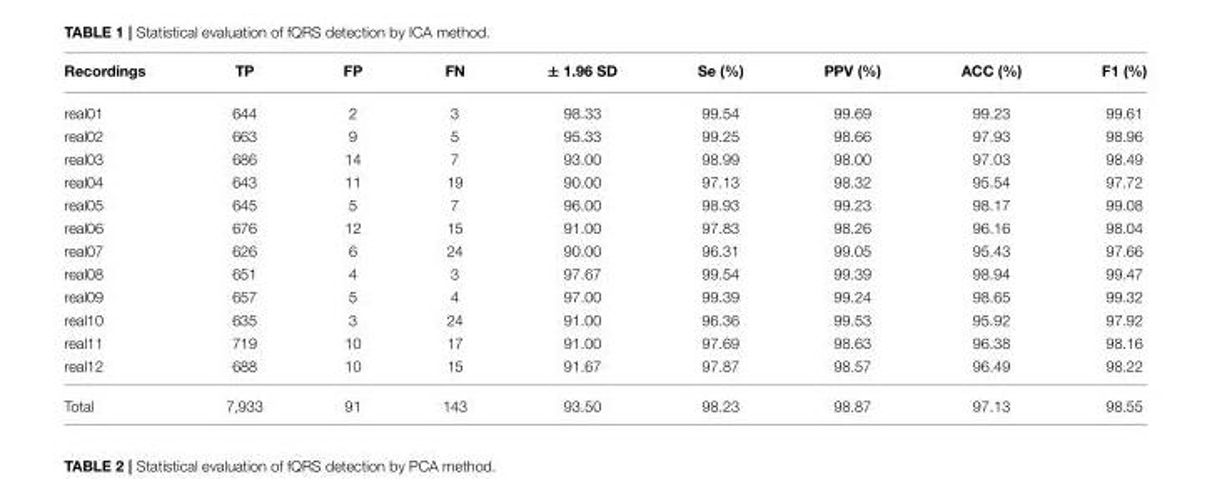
<table><thead><tr><td>Recordings</td><td>TP</td><td>FP</td><td>FN</td><td>± 1.96 SD</td><td>Se (%)</td><td>PPV (%)</td><td>ACC (%)</td><td>F1 (%)</td></tr></thead><tbody><tr><td>real01</td><td>644</td><td>2</td><td>3</td><td>98.33</td><td>99.54</td><td>99.69</td><td>99.23</td><td>99.61</td></tr><tr><td>real02</td><td>663</td><td>9</td><td>5</td><td>95.33</td><td>99.25</td><td>98.66</td><td>97.93</td><td>98.96</td></tr><tr><td>real03</td><td>686</td><td>14</td><td>7</td><td>93.00</td><td>98.99</td><td>98.00</td><td>97.03</td><td>98.49</td></tr><tr><td>real04</td><td>643</td><td>11</td><td>19</td><td>90.00</td><td>97.13</td><td>98.32</td><td>95.54</td><td>97.72</td></tr><tr><td>real05</td><td>645</td><td>5</td><td>7</td><td>96.00</td><td>98.93</td><td>99.23</td><td>98.17</td><td>99.08</td></tr><tr><td>real06</td><td>676</td><td>12</td><td>15</td><td>91.00</td><td>97.83</td><td>98.26</td><td>96.16</td><td>98.04</td></tr><tr><td>real07</td><td>626</td><td>6</td><td>24</td><td>90.00</td><td>96.31</td><td>99.05</td><td>95.43</td><td>97.66</td></tr><tr><td>real08</td><td>651</td><td>4</td><td>3</td><td>97.67</td><td>99.54</td><td>99.39</td><td>98.94</td><td>99.47</td></tr><tr><td>real09</td><td>657</td><td>5</td><td>4</td><td>97.00</td><td>99.39</td><td>99.24</td><td>98.65</td><td>99.32</td></tr><tr><td>real10</td><td>635</td><td>3</td><td>24</td><td>91.00</td><td>96.36</td><td>99.53</td><td>95.92</td><td>97.92</td></tr><tr><td>real11</td><td>719</td><td>10</td><td>17</td><td>91.00</td><td>97.69</td><td>98.63</td><td>96.38</td><td>98.16</td></tr><tr><td>real12</td><td>688</td><td>10</td><td>15</td><td>91.67</td><td>97.87</td><td>98.57</td><td>96.49</td><td>98.22</td></tr><tr><td>Total</td><td>7,933</td><td>91</td><td>143</td><td>93.50</td><td>98.23</td><td>98.87</td><td>97.13</td><td>98.55</td></tr></tbody></table>